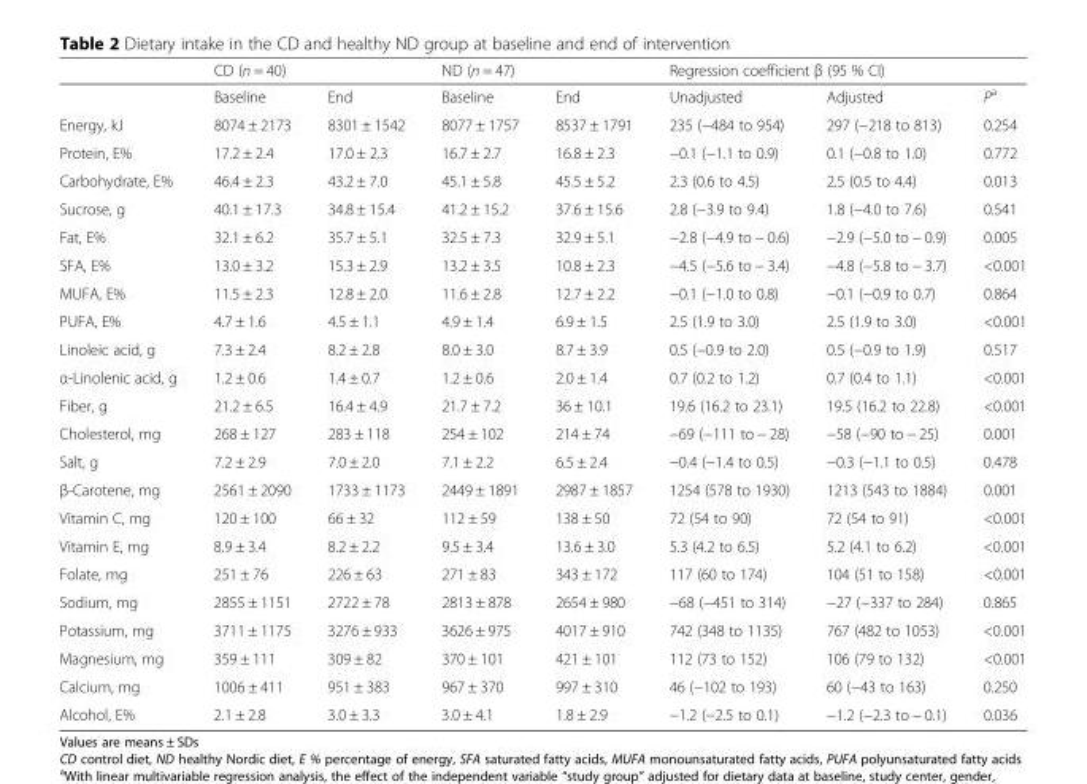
<table><thead><tr><td rowspan="2"></td><td colspan="2">CD (n = 40)</td><td colspan="2">ND (n = 47)</td><td colspan="2">Regression coefficient β (95 % CI)</td><td rowspan="2">P<sup>a</sup></td></tr><tr><td>Baseline</td><td>End</td><td>Baseline</td><td>End</td><td>Unadjusted</td><td>Adjusted</td></tr></thead><tbody><tr><td>Energy, kJ</td><td>8074 ± 2173</td><td>8301 ± 1542</td><td>8077 ± 1757</td><td>8537 ± 1791</td><td>235 (−484 to 954)</td><td>297 (−218 to 813)</td><td>0.254</td></tr><tr><td>Protein, E%</td><td>17.2 ± 2.4</td><td>17.0 ± 2.3</td><td>16.7 ± 2.7</td><td>16.8 ± 2.3</td><td>−0.1 (−1.1 to 0.9)</td><td>0.1 (−0.8 to 1.0)</td><td>0.772</td></tr><tr><td>Carbohydrate, E%</td><td>46.4 ± 2.3</td><td>43.2 ± 7.0</td><td>45.1 ± 5.8</td><td>45.5 ± 5.2</td><td>2.3 (0.6 to 4.5)</td><td>2.5 (0.5 to 4.4)</td><td>0.013</td></tr><tr><td>Sucrose, g</td><td>40.1 ± 17.3</td><td>34.8 ± 15.4</td><td>41.2 ± 15.2</td><td>37.6 ± 15.6</td><td>2.8 (−3.9 to 9.4)</td><td>1.8 (−4.0 to 7.6)</td><td>0.541</td></tr><tr><td>Fat, E%</td><td>32.1 ± 6.2</td><td>35.7 ± 5.1</td><td>32.5 ± 7.3</td><td>32.9 ± 5.1</td><td>−2.8 (−4.9 to − 0.6)</td><td>−2.9 (−5.0 to − 0.9)</td><td>0.005</td></tr><tr><td>SFA, E%</td><td>13.0 ± 3.2</td><td>15.3 ± 2.9</td><td>13.2 ± 3.5</td><td>10.8 ± 2.3</td><td>−4.5 (−5.6 to − 3.4)</td><td>−4.8 (−5.8 to − 3.7)</td><td>&lt;0.001</td></tr><tr><td>MUFA, E%</td><td>11.5 ± 2.3</td><td>12.8 ± 2.0</td><td>11.6 ± 2.8</td><td>12.7 ± 2.2</td><td>−0.1 (−1.0 to 0.8)</td><td>−0.1 (−0.9 to 0.7)</td><td>0.864</td></tr><tr><td>PUFA, E%</td><td>4.7 ± 1.6</td><td>4.5 ± 1.1</td><td>4.9 ± 1.4</td><td>6.9 ± 1.5</td><td>2.5 (1.9 to 3.0)</td><td>2.5 (1.9 to 3.0)</td><td>&lt;0.001</td></tr><tr><td>Linoleic acid, g</td><td>7.3 ± 2.4</td><td>8.2 ± 2.8</td><td>8.0 ± 3.0</td><td>8.7 ± 3.9</td><td>0.5 (−0.9 to 2.0)</td><td>0.5 (−0.9 to 1.9)</td><td>0.517</td></tr><tr><td>α-Linolenic acid, g</td><td>1.2 ± 0.6</td><td>1.4 ± 0.7</td><td>1.2 ± 0.6</td><td>2.0 ± 1.4</td><td>0.7 (0.2 to 1.2)</td><td>0.7 (0.4 to 1.1)</td><td>&lt;0.001</td></tr><tr><td>Fiber, g</td><td>21.2 ± 6.5</td><td>16.4 ± 4.9</td><td>21.7 ± 7.2</td><td>36 ± 10.1</td><td>19.6 (16.2 to 23.1)</td><td>19.5 (16.2 to 22.8)</td><td>&lt;0.001</td></tr><tr><td>Cholesterol, mg</td><td>268 ± 127</td><td>283 ± 118</td><td>254 ± 102</td><td>214 ± 74</td><td>−69 (−111 to − 28)</td><td>−58 (−90 to − 25)</td><td>0.001</td></tr><tr><td>Salt, g</td><td>7.2 ± 2.9</td><td>7.0 ± 2.0</td><td>7.1 ± 2.2</td><td>6.5 ± 2.4</td><td>−0.4 (−1.4 to 0.5)</td><td>−0.3 (−1.1 to 0.5)</td><td>0.478</td></tr><tr><td>β-Carotene, mg</td><td>2561 ± 2090</td><td>1733 ± 1173</td><td>2449 ± 1891</td><td>2987 ± 1857</td><td>1254 (578 to 1930)</td><td>1213 (543 to 1884)</td><td>0.001</td></tr><tr><td>Vitamin C, mg</td><td>120 ± 100</td><td>66 ± 32</td><td>112 ± 59</td><td>138 ± 50</td><td>72 (54 to 90)</td><td>72 (54 to 91)</td><td>&lt;0.001</td></tr><tr><td>Vitamin E, mg</td><td>8.9 ± 3.4</td><td>8.2 ± 2.2</td><td>9.5 ± 3.4</td><td>13.6 ± 3.0</td><td>5.3 (4.2 to 6.5)</td><td>5.2 (4.1 to 6.2)</td><td>&lt;0.001</td></tr><tr><td>Folate, mg</td><td>251 ± 76</td><td>226 ± 63</td><td>271 ± 83</td><td>343 ± 172</td><td>117 (60 to 174)</td><td>104 (51 to 158)</td><td>&lt;0.001</td></tr><tr><td>Sodium, mg</td><td>2855 ± 1151</td><td>2722 ± 78</td><td>2813 ± 878</td><td>2654 ± 980</td><td>−68 (−451 to 314)</td><td>−27 (−337 to 284)</td><td>0.865</td></tr><tr><td>Potassium, mg</td><td>3711 ± 1175</td><td>3276 ± 933</td><td>3626 ± 975</td><td>4017 ± 910</td><td>742 (348 to 1135)</td><td>767 (482 to 1053)</td><td>&lt;0.001</td></tr><tr><td>Magnesium, mg</td><td>359 ± 111</td><td>309 ± 82</td><td>370 ± 101</td><td>421 ± 101</td><td>112 (73 to 152)</td><td>106 (79 to 132)</td><td>&lt;0.001</td></tr><tr><td>Calcium, mg</td><td>1006 ± 411</td><td>951 ± 383</td><td>967 ± 370</td><td>997 ± 310</td><td>46 (−102 to 193)</td><td>60 (−43 to 163)</td><td>0.250</td></tr><tr><td>Alcohol, E%</td><td>2.1 ± 2.8</td><td>3.0 ± 3.3</td><td>3.0 ± 4.1</td><td>1.8 ± 2.9</td><td>−1.2 (−2.5 to 0.1)</td><td>−1.2 (−2.3 to − 0.1)</td><td>0.036</td></tr></tbody></table>